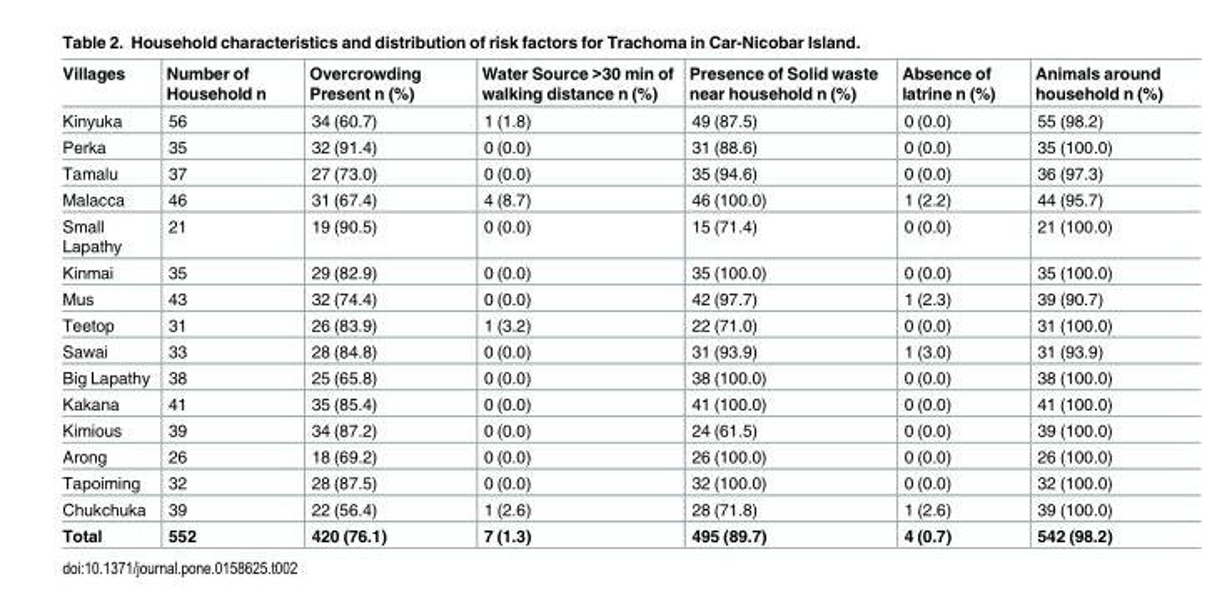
<table><thead><tr><td>Villages</td><td>Number of Household n</td><td>Overcrowding Present n (%)</td><td>Water Source &gt;30 min of walking distance n (%)</td><td>Presence of Solid waste near household n (%)</td><td>Absence of latrine n (%)</td><td>Animals around household n (%)</td></tr></thead><tbody><tr><td>Kinyuka</td><td>56</td><td>34 (60.7)</td><td>1 (1.8)</td><td>49 (87.5)</td><td>0 (0.0)</td><td>55 (98.2)</td></tr><tr><td>Perka</td><td>35</td><td>32 (91.4)</td><td>0 (0.0)</td><td>31 (88.6)</td><td>0 (0.0)</td><td>35 (100.0)</td></tr><tr><td>Tamalu</td><td>37</td><td>27 (73.0)</td><td>0 (0.0)</td><td>35 (94.6)</td><td>0 (0.0)</td><td>36 (97.3)</td></tr><tr><td>Malacca</td><td>46</td><td>31 (67.4)</td><td>4 (8.7)</td><td>46 (100.0)</td><td>1 (2.2)</td><td>44 (95.7)</td></tr><tr><td>Small Lapathy</td><td>21</td><td>19 (90.5)</td><td>0 (0.0)</td><td>15 (71.4)</td><td>0 (0.0)</td><td>21 (100.0)</td></tr><tr><td>Kinmai</td><td>35</td><td>29 (82.9)</td><td>0 (0.0)</td><td>35 (100.0)</td><td>0 (0.0)</td><td>35 (100.0)</td></tr><tr><td>Mus</td><td>43</td><td>32 (74.4)</td><td>0 (0.0)</td><td>42 (97.7)</td><td>1 (2.3)</td><td>39 (90.7)</td></tr><tr><td>Teetop</td><td>31</td><td>26 (83.9)</td><td>1 (3.2)</td><td>22 (71.0)</td><td>0 (0.0)</td><td>31 (100.0)</td></tr><tr><td>Sawai</td><td>33</td><td>28 (84.8)</td><td>0 (0.0)</td><td>31 (93.9)</td><td>1 (3.0)</td><td>31 (93.9)</td></tr><tr><td>Big Lapathy</td><td>38</td><td>25 (65.8)</td><td>0 (0.0)</td><td>38 (100.0)</td><td>0 (0.0)</td><td>38 (100.0)</td></tr><tr><td>Kakana</td><td>41</td><td>35 (85.4)</td><td>0 (0.0)</td><td>41 (100.0)</td><td>0 (0.0)</td><td>41 (100.0)</td></tr><tr><td>Kimious</td><td>39</td><td>34 (87.2)</td><td>0 (0.0)</td><td>24 (61.5)</td><td>0 (0.0)</td><td>39 (100.0)</td></tr><tr><td>Arong</td><td>26</td><td>18 (69.2)</td><td>0 (0.0)</td><td>26 (100.0)</td><td>0 (0.0)</td><td>26 (100.0)</td></tr><tr><td>Tapoiming</td><td>32</td><td>28 (87.5)</td><td>0 (0.0)</td><td>32 (100.0)</td><td>0 (0.0)</td><td>32 (100.0)</td></tr><tr><td>Chukchuka</td><td>39</td><td>22 (56.4)</td><td>1 (2.6)</td><td>28 (71.8)</td><td>1 (2.6)</td><td>39 (100.0)</td></tr><tr><td>Total</td><td>552</td><td>420 (76.1)</td><td>7 (1.3)</td><td>495 (89.7)</td><td>4 (0.7)</td><td>542 (98.2)</td></tr></tbody></table>